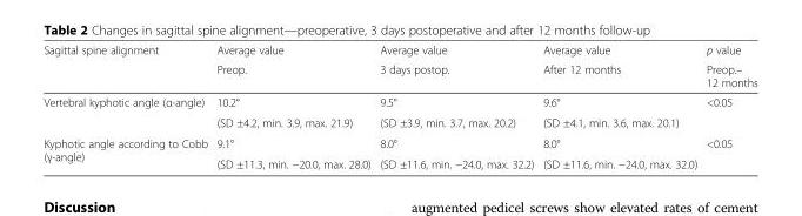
<table><thead><tr><td rowspan="2">Sagittal spine alignment</td><td rowspan="2">Average value Preop.</td><td rowspan="2">Average value 3 days postop.</td><td rowspan="2">Average value After 12 months</td><td rowspan="2">p value Preop.– 12 months</td></tr><tr></tr></thead><tbody><tr><td rowspan="2">Vertebral kyphotic angle (α-angle)</td><td>10.2°</td><td>9.5°</td><td>9.6°</td><td rowspan="2">&lt;0.05</td></tr><tr><td>(SD ±4.2, min. 3.9, max. 21.9)</td><td>(SD ±3.9, min. 3.7, max. 20.2)</td><td>(SD ±4.1, min. 3.6, max. 20.1)</td></tr><tr><td rowspan="2">Kyphotic angle according to Cobb (γ-angle)</td><td>9.1°</td><td>8.0°</td><td>8.0°</td><td rowspan="2">&lt;0.05</td></tr><tr><td>(SD ±11.3, min. −20.0, max. 28.0)</td><td>(SD ±11.6, min. −24.0, max. 32.2)</td><td>(SD ±11.6, min. −24.0, max. 32.0)</td></tr></tbody></table>